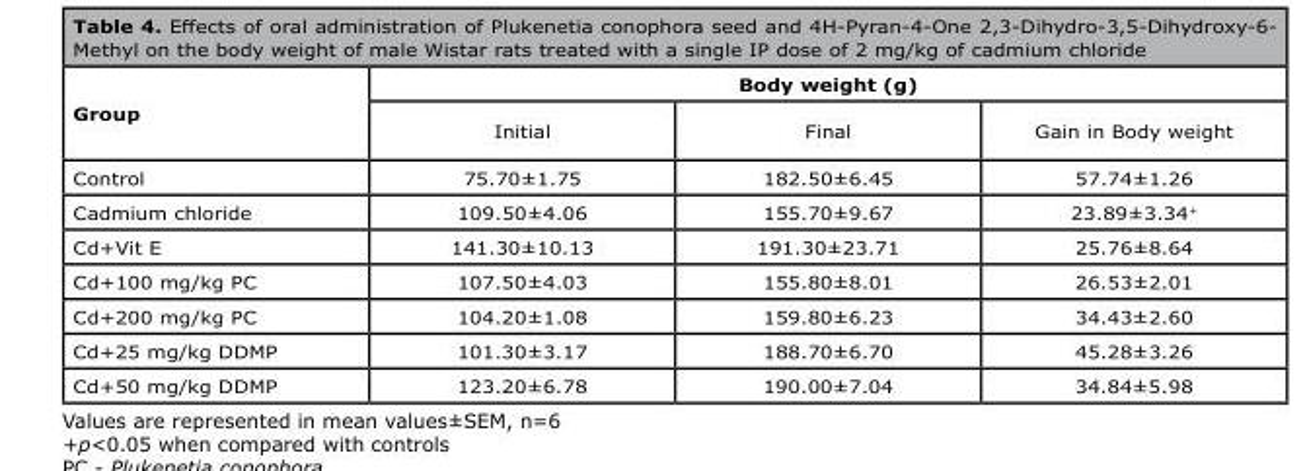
<table><thead><tr><td rowspan="2">Group</td><td colspan="3">Body weight (g)</td></tr><tr><td>Initial</td><td>Final</td><td>Gain in Body weight</td></tr></thead><tbody><tr><td>Control</td><td>75.70±1.75</td><td>182.50±6.45</td><td>57.74±1.26</td></tr><tr><td>Cadmium chloride</td><td>109.50±4.06</td><td>155.70±9.67</td><td>23.89±3.34<sup>+</sup></td></tr><tr><td>Cd+Vit E</td><td>141.30±10.13</td><td>191.30±23.71</td><td>25.76±8.64</td></tr><tr><td>Cd+100 mg/kg PC</td><td>107.50±4.03</td><td>155.80±8.01</td><td>26.53±2.01</td></tr><tr><td>Cd+200 mg/kg PC</td><td>104.20±1.08</td><td>159.80±6.23</td><td>34.43±2.60</td></tr><tr><td>Cd+25 mg/kg DDMP</td><td>101.30±3.17</td><td>188.70±6.70</td><td>45.28±3.26</td></tr><tr><td>Cd+50 mg/kg DDMP</td><td>123.20±6.78</td><td>190.00±7.04</td><td>34.84±5.98</td></tr></tbody></table>